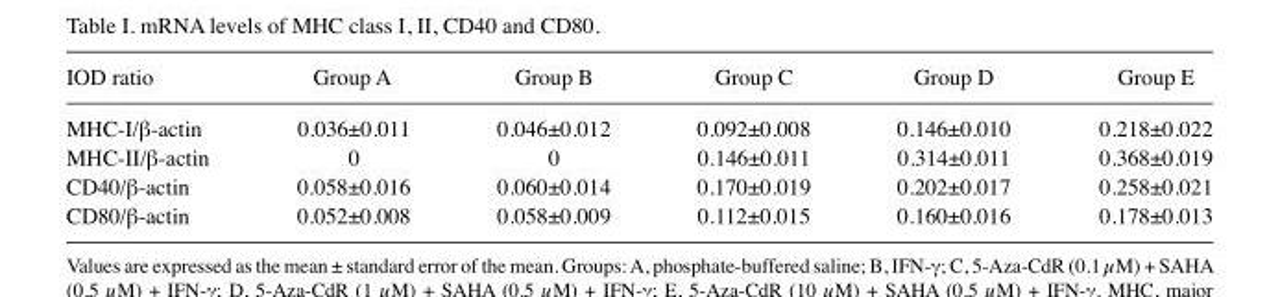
<table><thead><tr><td>IOD ratio</td><td>Group A</td><td>Group B</td><td>Group C</td><td>Group D</td><td>Group E</td></tr></thead><tbody><tr><td>MHC-I/β-actin</td><td>0.036±0.011</td><td>0.046±0.012</td><td>0.092±0.008</td><td>0.146±0.010</td><td>0.218±0.022</td></tr><tr><td>MHC-II/β-actin</td><td>0</td><td>0</td><td>0.146±0.011</td><td>0.314±0.011</td><td>0.368±0.019</td></tr><tr><td>CD40/β-actin</td><td>0.058±0.016</td><td>0.060±0.014</td><td>0.170±0.019</td><td>0.202±0.017</td><td>0.258±0.021</td></tr><tr><td>CD80/β-actin</td><td>0.052±0.008</td><td>0.058±0.009</td><td>0.112±0.015</td><td>0.160±0.016</td><td>0.178±0.013</td></tr></tbody></table>